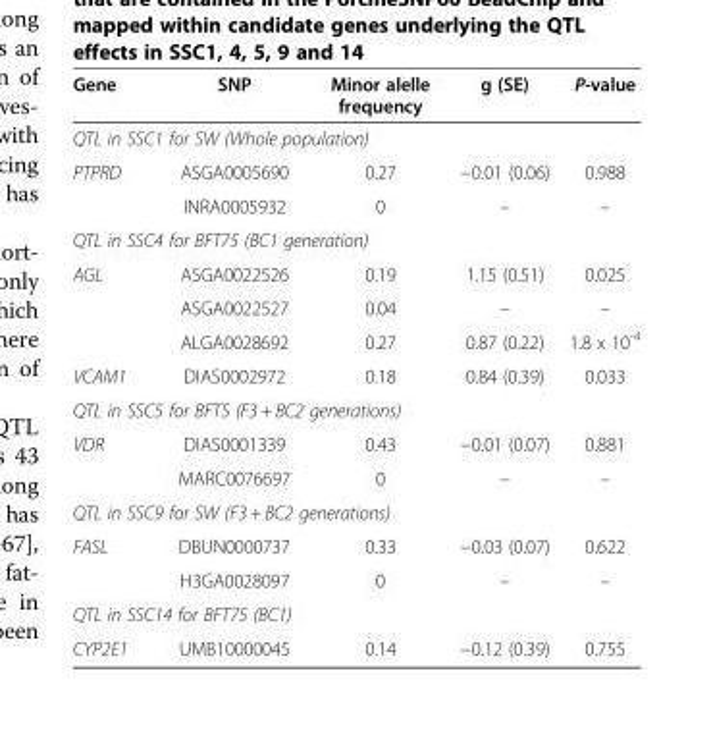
<table><thead><tr><td>Gene</td><td>SNP</td><td>Minor alelle frequency</td><td>g (SE)</td><td>P-value</td></tr></thead><tbody><tr><td colspan="5">QTL in SSC1 for SW (Whole population)</td></tr><tr><td rowspan="2">PTPRD</td><td>ASGA0005690</td><td>0.27</td><td>−0.01 (0.06)</td><td>0.988</td></tr><tr><td>INRA0005932</td><td>0</td><td>–</td><td>–</td></tr><tr><td colspan="5">QTL in SSC4 for BFT75 (BC1 generation)</td></tr><tr><td rowspan="3">AGL</td><td>ASGA0022526</td><td>0.19</td><td>1.15 (0.51)</td><td>0.025</td></tr><tr><td>ASGA0022527</td><td>0.04</td><td>–</td><td>–</td></tr><tr><td>ALGA0028692</td><td>0.27</td><td>0.87 (0.22)</td><td>1.8 x 10<sup>-4</sup></td></tr><tr><td>VCAM1</td><td>DIAS0002972</td><td>0.18</td><td>0.84 (0.39)</td><td>0.033</td></tr><tr><td colspan="5">QTL in SSC5 for BFTS (F3 + BC2 generations)</td></tr><tr><td rowspan="2">VDR</td><td>DIAS0001339</td><td>0.43</td><td>−0.01 (0.07)</td><td>0.881</td></tr><tr><td>MARC0076697</td><td>0</td><td>–</td><td>–</td></tr><tr><td colspan="5">QTL in SSC9 for SW (F3 + BC2 generations)</td></tr><tr><td rowspan="2">FASL</td><td>DBUN0000737</td><td>0.33</td><td>−0.03 (0.07)</td><td>0.622</td></tr><tr><td>H3GA0028097</td><td>0</td><td>–</td><td>–</td></tr><tr><td colspan="5">QTL in SSC14 for BFT75 (BC1)</td></tr><tr><td>CYP2E1</td><td>UMB10000045</td><td>0.14</td><td>−0.12 (0.39)</td><td>0.755</td></tr></tbody></table>